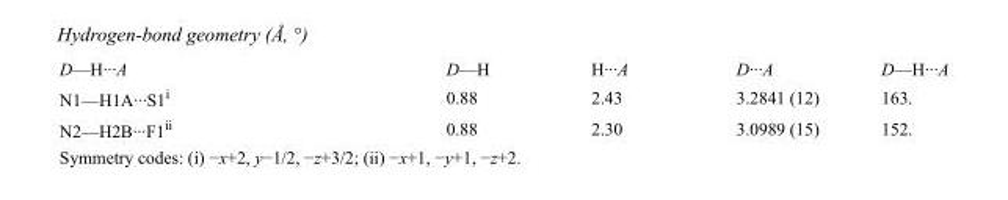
<table><tbody><tr><td>D—H···A</td><td>D—H</td><td>H···A</td><td>D···A</td><td>D—H···A</td></tr><tr><td>N1—H1A···S1<sup>i</sup></td><td>0.88</td><td>2.43</td><td>3.2841 (12)</td><td>163.</td></tr><tr><td>N2—H2B···F1<sup>ii</sup></td><td>0.88</td><td>2.30</td><td>3.0989 (15)</td><td>152.</td></tr></tbody></table>